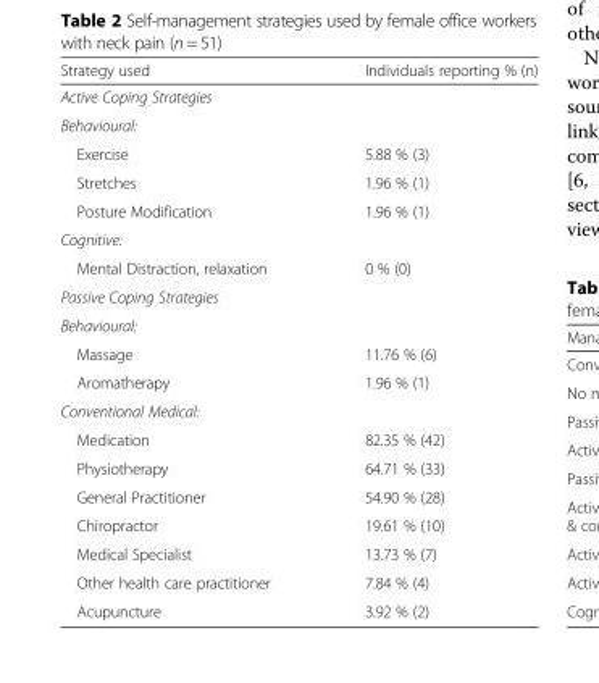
<table><thead><tr><td>Strategy used</td><td>Individuals reporting % (n)</td></tr></thead><tbody><tr><td colspan="2">Active Coping Strategies</td></tr><tr><td colspan="2">Behavioural:</td></tr><tr><td>Exercise</td><td>5.88 % (3)</td></tr><tr><td>Stretches</td><td>1.96 % (1)</td></tr><tr><td>Posture Modification</td><td>1.96 % (1)</td></tr><tr><td colspan="2">Cognitive:</td></tr><tr><td>Mental Distraction, relaxation</td><td>0 % (0)</td></tr><tr><td colspan="2">Passive Coping Strategies</td></tr><tr><td colspan="2">Behavioural:</td></tr><tr><td>Massage</td><td>11.76 % (6)</td></tr><tr><td>Aromatherapy</td><td>1.96 % (1)</td></tr><tr><td colspan="2">Conventional Medical:</td></tr><tr><td>Medication</td><td>82.35 % (42)</td></tr><tr><td>Physiotherapy</td><td>64.71 % (33)</td></tr><tr><td>General Practitioner</td><td>54.90 % (28)</td></tr><tr><td>Chiropractor</td><td>19.61 % (10)</td></tr><tr><td>Medical Specialist</td><td>13.73 % (7)</td></tr><tr><td>Other health care practitioner</td><td>7.84 % (4)</td></tr><tr><td>Acupuncture</td><td>3.92 % (2)</td></tr></tbody></table>